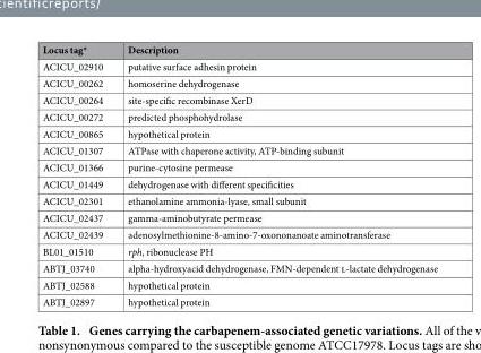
<table><thead><tr><td>Locus tag*</td><td>Description</td></tr></thead><tbody><tr><td>ACICU_02910</td><td>putative surface adhesin protein</td></tr><tr><td>ACICU_00262</td><td>homoserine dehydrogenase</td></tr><tr><td>ACICU_00264</td><td>site-specific recombinase XerD</td></tr><tr><td>ACICU_00272</td><td>predicted phosphohydrolase</td></tr><tr><td>ACICU_00865</td><td>hypothetical protein</td></tr><tr><td>ACICU_01307</td><td>ATPase with chaperone activity, ATP-binding subunit</td></tr><tr><td>ACICU_01366</td><td>purine-cytosine permease</td></tr><tr><td>ACICU_01449</td><td>dehydrogenase with different specificities</td></tr><tr><td>ACICU_02301</td><td>ethanolamine ammonia-lyase, small subunit</td></tr><tr><td>ACICU_02437</td><td>gamma-aminobutyrate permease</td></tr><tr><td>ACICU_02439</td><td>adenosylmethionine-8-amino-7-oxononanoate aminotransferase</td></tr><tr><td>BL01_01510</td><td>rph, ribonuclease PH</td></tr><tr><td>ABTJ_03740</td><td>alpha-hydroxyacid dehydrogenase, FMN-dependent l-lactate dehydrogenase</td></tr><tr><td>ABTJ_02588</td><td>hypothetical protein</td></tr><tr><td>ABTJ_02897</td><td>hypothetical protein</td></tr></tbody></table>